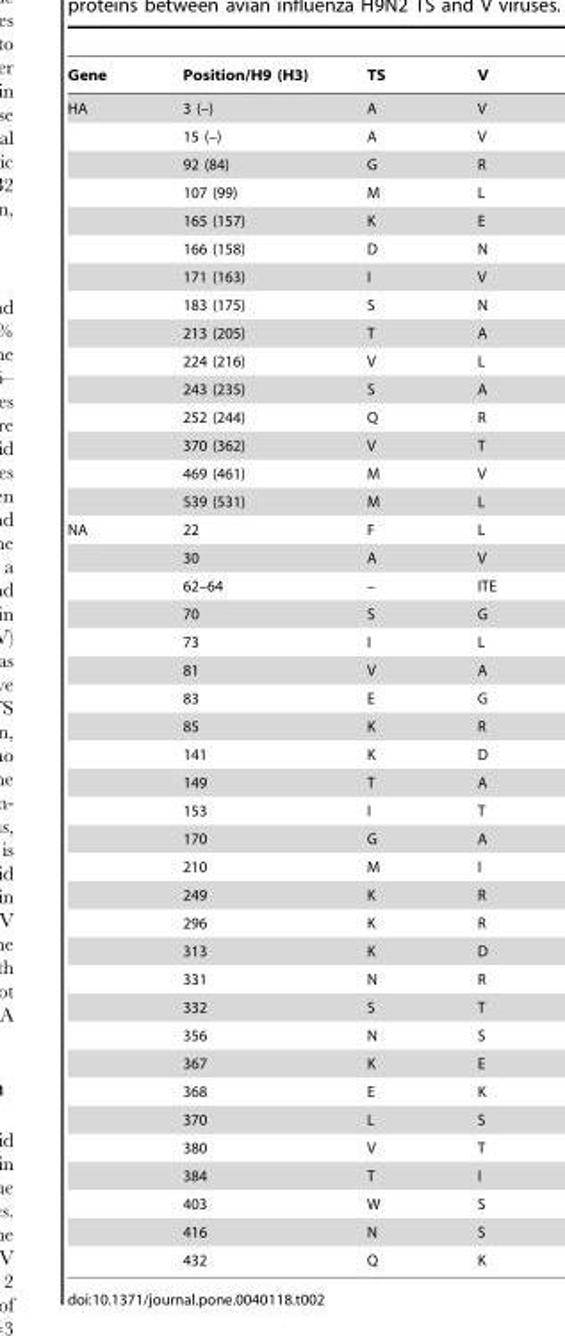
<table><thead><tr><td>Gene</td><td>Position/H9 (H3)</td><td>TS</td><td>V</td></tr></thead><tbody><tr><td rowspan="15">HA</td><td>3 (–)</td><td>A</td><td>V</td></tr><tr><td>15 (–)</td><td>A</td><td>V</td></tr><tr><td>92 (84)</td><td>G</td><td>R</td></tr><tr><td>107 (99)</td><td>M</td><td>L</td></tr><tr><td>165 (157)</td><td>K</td><td>E</td></tr><tr><td>166 (158)</td><td>D</td><td>N</td></tr><tr><td>171 (163)</td><td>I</td><td>V</td></tr><tr><td>183 (175)</td><td>S</td><td>N</td></tr><tr><td>213 (205)</td><td>T</td><td>A</td></tr><tr><td>224 (216)</td><td>V</td><td>L</td></tr><tr><td>243 (235)</td><td>S</td><td>A</td></tr><tr><td>252 (244)</td><td>Q</td><td>R</td></tr><tr><td>370 (362)</td><td>V</td><td>T</td></tr><tr><td>469 (461)</td><td>M</td><td>V</td></tr><tr><td>539 (531)</td><td>M</td><td>L</td></tr><tr><td rowspan="27">NA</td><td>22</td><td>F</td><td>L</td></tr><tr><td>30</td><td>A</td><td>V</td></tr><tr><td>62–64</td><td>–</td><td>ITE</td></tr><tr><td>70</td><td>S</td><td>G</td></tr><tr><td>73</td><td>I</td><td>L</td></tr><tr><td>81</td><td>V</td><td>A</td></tr><tr><td>83</td><td>E</td><td>G</td></tr><tr><td>85</td><td>K</td><td>R</td></tr><tr><td>141</td><td>K</td><td>D</td></tr><tr><td>149</td><td>T</td><td>A</td></tr><tr><td>153</td><td>I</td><td>T</td></tr><tr><td>170</td><td>G</td><td>A</td></tr><tr><td>210</td><td>M</td><td>I</td></tr><tr><td>249</td><td>K</td><td>R</td></tr><tr><td>296</td><td>K</td><td>R</td></tr><tr><td>313</td><td>K</td><td>D</td></tr><tr><td>331</td><td>N</td><td>R</td></tr><tr><td>332</td><td>S</td><td>T</td></tr><tr><td>356</td><td>N</td><td>S</td></tr><tr><td>367</td><td>K</td><td>E</td></tr><tr><td>368</td><td>E</td><td>K</td></tr><tr><td>370</td><td>L</td><td>S</td></tr><tr><td>380</td><td>V</td><td>T</td></tr><tr><td>384</td><td>T</td><td>I</td></tr><tr><td>403</td><td>W</td><td>S</td></tr><tr><td>416</td><td>N</td><td>S</td></tr><tr><td>432</td><td>Q</td><td>K</td></tr></tbody></table>